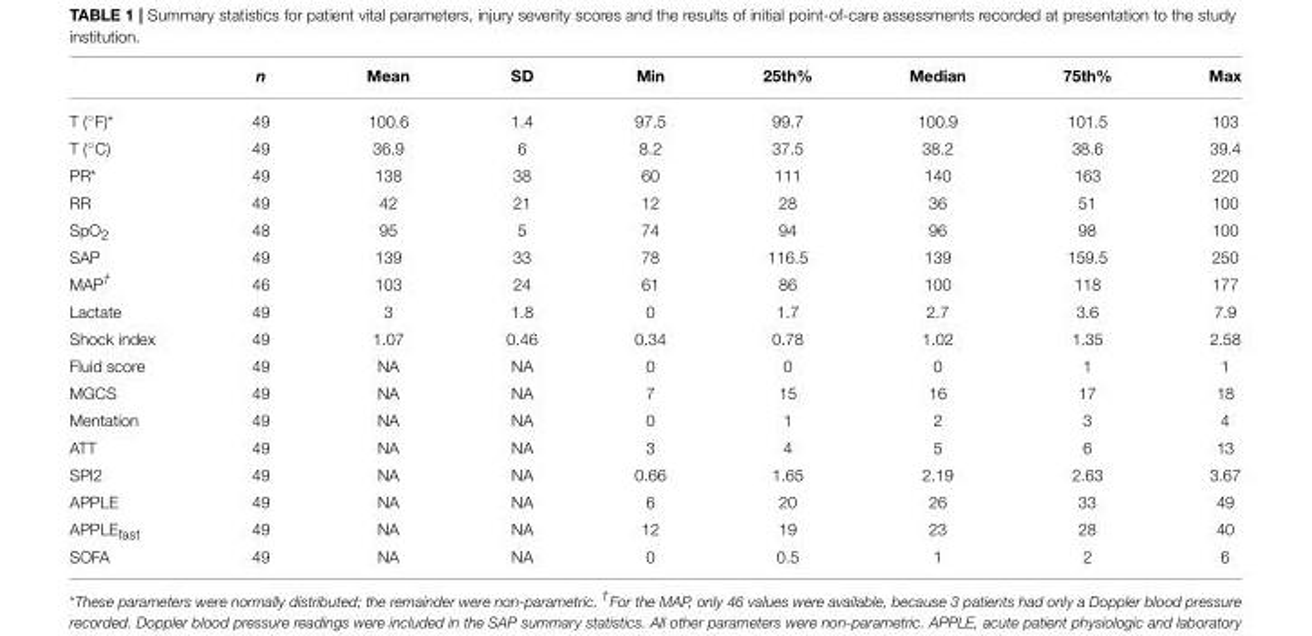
<table><thead><tr><td></td><td>n</td><td>Mean</td><td>SD</td><td>Min</td><td>25th%</td><td>Median</td><td>75th%</td><td>Max</td></tr></thead><tbody><tr><td>T (◦F)*</td><td>49</td><td>100.6</td><td>1.4</td><td>97.5</td><td>99.7</td><td>100.9</td><td>101.5</td><td>103</td></tr><tr><td>T (◦C)</td><td>49</td><td>36.9</td><td>6</td><td>8.2</td><td>37.5</td><td>38.2</td><td>38.6</td><td>39.4</td></tr><tr><td>PR*</td><td>49</td><td>138</td><td>38</td><td>60</td><td>111</td><td>140</td><td>163</td><td>220</td></tr><tr><td>RR</td><td>49</td><td>42</td><td>21</td><td>12</td><td>28</td><td>36</td><td>51</td><td>100</td></tr><tr><td>SpO<sub>2</sub></td><td>48</td><td>95</td><td>5</td><td>74</td><td>94</td><td>96</td><td>98</td><td>100</td></tr><tr><td>SAP</td><td>49</td><td>139</td><td>33</td><td>78</td><td>116.5</td><td>139</td><td>159.5</td><td>250</td></tr><tr><td>MAP<sup>†</sup></td><td>46</td><td>103</td><td>24</td><td>61</td><td>86</td><td>100</td><td>118</td><td>177</td></tr><tr><td>Lactate</td><td>49</td><td>3</td><td>1.8</td><td>0</td><td>1.7</td><td>2.7</td><td>3.6</td><td>7.9</td></tr><tr><td>Shock index</td><td>49</td><td>1.07</td><td>0.46</td><td>0.34</td><td>0.78</td><td>1.02</td><td>1.35</td><td>2.58</td></tr><tr><td>Fluid score</td><td>49</td><td>NA</td><td>NA</td><td>0</td><td>0</td><td>0</td><td>1</td><td>1</td></tr><tr><td>MGCS</td><td>49</td><td>NA</td><td>NA</td><td>7</td><td>15</td><td>16</td><td>17</td><td>18</td></tr><tr><td>Mentation</td><td>49</td><td>NA</td><td>NA</td><td>0</td><td>1</td><td>2</td><td>3</td><td>4</td></tr><tr><td>ATT</td><td>49</td><td>NA</td><td>NA</td><td>3</td><td>4</td><td>5</td><td>6</td><td>13</td></tr><tr><td>SPI2</td><td>49</td><td>NA</td><td>NA</td><td>0.66</td><td>1.65</td><td>2.19</td><td>2.63</td><td>3.67</td></tr><tr><td>APPLE</td><td>49</td><td>NA</td><td>NA</td><td>6</td><td>20</td><td>26</td><td>33</td><td>49</td></tr><tr><td>APPLE<sub>fast</sub></td><td>49</td><td>NA</td><td>NA</td><td>12</td><td>19</td><td>23</td><td>28</td><td>40</td></tr><tr><td>SOFA</td><td>49</td><td>NA</td><td>NA</td><td>0</td><td>0.5</td><td>1</td><td>2</td><td>6</td></tr></tbody></table>